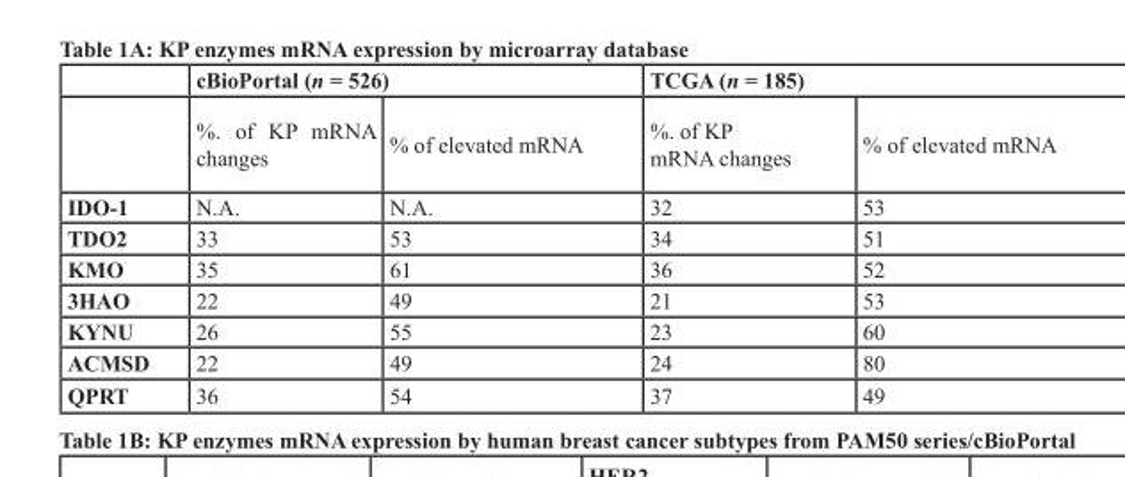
<table><thead><tr><td rowspan="2"></td><td colspan="2">cBioPortal (n = 526)</td><td colspan="2">TCGA (n = 185)</td></tr><tr><td>%. of KP mRNA changes</td><td>% of elevated mRNA</td><td>%. of KP mRNA changes</td><td>% of elevated mRNA</td></tr></thead><tbody><tr><td>IDO-1</td><td>N.A.</td><td>N.A.</td><td>32</td><td>53</td></tr><tr><td>TDO2</td><td>33</td><td>53</td><td>34</td><td>51</td></tr><tr><td>KMO</td><td>35</td><td>61</td><td>36</td><td>52</td></tr><tr><td>3HAO</td><td>22</td><td>49</td><td>21</td><td>53</td></tr><tr><td>KYNU</td><td>26</td><td>55</td><td>23</td><td>60</td></tr><tr><td>ACMSD</td><td>22</td><td>49</td><td>24</td><td>80</td></tr><tr><td>QPRT</td><td>36</td><td>54</td><td>37</td><td>49</td></tr></tbody></table>